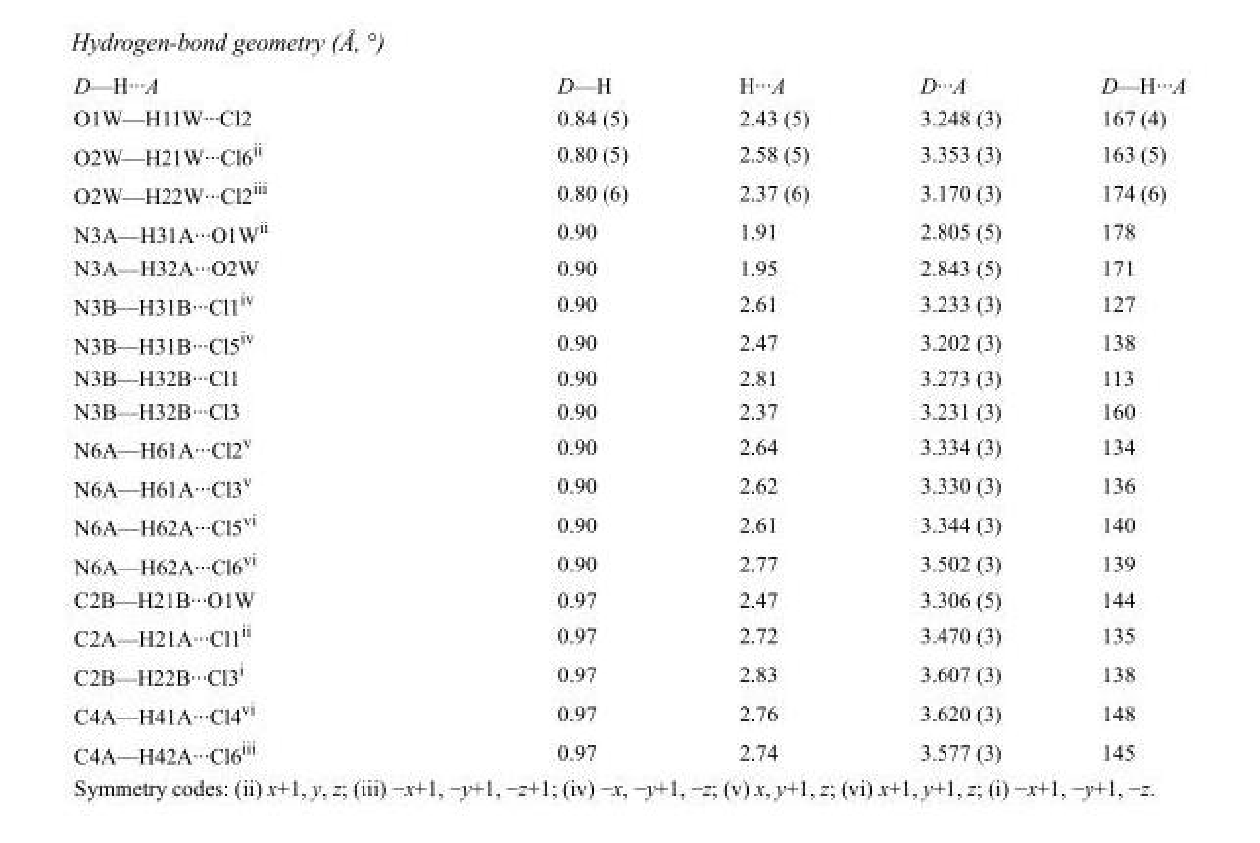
<table><tbody><tr><td>D—H···A</td><td>D—H</td><td>H···A</td><td>D···A</td><td>D—H···A</td></tr><tr><td>O1W—H11W···Cl2</td><td>0.84 (5)</td><td>2.43 (5)</td><td>3.248 (3)</td><td>167 (4)</td></tr><tr><td>O2W—H21W···Cl6<sup>ii</sup></td><td>0.80 (5)</td><td>2.58 (5)</td><td>3.353 (3)</td><td>163 (5)</td></tr><tr><td>O2W—H22W···Cl2<sup>iii</sup></td><td>0.80 (6)</td><td>2.37 (6)</td><td>3.170 (3)</td><td>174 (6)</td></tr><tr><td>N3A—H31A···O1W<sup>ii</sup></td><td>0.90</td><td>1.91</td><td>2.805 (5)</td><td>178</td></tr><tr><td>N3A—H32A···O2W</td><td>0.90</td><td>1.95</td><td>2.843 (5)</td><td>171</td></tr><tr><td>N3B—H31B···Cl1<sup>iv</sup></td><td>0.90</td><td>2.61</td><td>3.233 (3)</td><td>127</td></tr><tr><td>N3B—H31B···Cl5<sup>iv</sup></td><td>0.90</td><td>2.47</td><td>3.202 (3)</td><td>138</td></tr><tr><td>N3B—H32B···Cl1</td><td>0.90</td><td>2.81</td><td>3.273 (3)</td><td>113</td></tr><tr><td>N3B—H32B···Cl3</td><td>0.90</td><td>2.37</td><td>3.231 (3)</td><td>160</td></tr><tr><td>N6A—H61A···Cl2<sup>v</sup></td><td>0.90</td><td>2.64</td><td>3.334 (3)</td><td>134</td></tr><tr><td>N6A—H61A···Cl3<sup>v</sup></td><td>0.90</td><td>2.62</td><td>3.330 (3)</td><td>136</td></tr><tr><td>N6A—H62A···Cl5<sup>vi</sup></td><td>0.90</td><td>2.61</td><td>3.344 (3)</td><td>140</td></tr><tr><td>N6A—H62A···Cl6<sup>vi</sup></td><td>0.90</td><td>2.77</td><td>3.502 (3)</td><td>139</td></tr><tr><td>C2B—H21B···O1W</td><td>0.97</td><td>2.47</td><td>3.306 (5)</td><td>144</td></tr><tr><td>C2A—H21A···Cl1<sup>ii</sup></td><td>0.97</td><td>2.72</td><td>3.470 (3)</td><td>135</td></tr><tr><td>C2B—H22B···Cl3<sup>i</sup></td><td>0.97</td><td>2.83</td><td>3.607 (3)</td><td>138</td></tr><tr><td>C4A—H41A···Cl4<sup>vi</sup></td><td>0.97</td><td>2.76</td><td>3.620 (3)</td><td>148</td></tr><tr><td>C4A—H42A···Cl6<sup>iii</sup></td><td>0.97</td><td>2.74</td><td>3.577 (3)</td><td>145</td></tr></tbody></table>